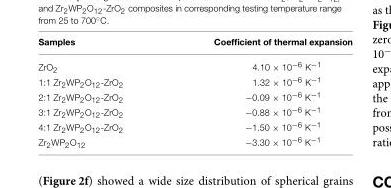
<table><thead><tr><td>Samples</td><td>Coefficient of thermal expansion</td></tr></thead><tbody><tr><td>ZrO<sub>2</sub></td><td>4.10 × 10<sup>−6</sup> K<sup>−1</sup></td></tr><tr><td>1:1 Zr<sub>2</sub>WP<sub>2</sub>O<sub>12</sub>-ZrO<sub>2</sub></td><td>1.32 × 10<sup>−6</sup> K<sup>−1</sup></td></tr><tr><td>2:1 Zr<sub>2</sub>WP<sub>2</sub>O<sub>12</sub>-ZrO<sub>2</sub></td><td>−0.09 × 10<sup>−6</sup> K<sup>−1</sup></td></tr><tr><td>3:1 Zr<sub>2</sub>WP<sub>2</sub>O<sub>12</sub>-ZrO<sub>2</sub></td><td>−0.88 × 10<sup>−6</sup> K<sup>−1</sup></td></tr><tr><td>4:1 Zr<sub>2</sub>WP<sub>2</sub>O<sub>12</sub>-ZrO<sub>2</sub></td><td>−1.50 × 10<sup>−6</sup> K<sup>−1</sup></td></tr><tr><td>Zr<sub>2</sub>WP<sub>2</sub>O<sub>12</sub></td><td>−3.30 × 10<sup>−6</sup> K<sup>−1</sup></td></tr></tbody></table>